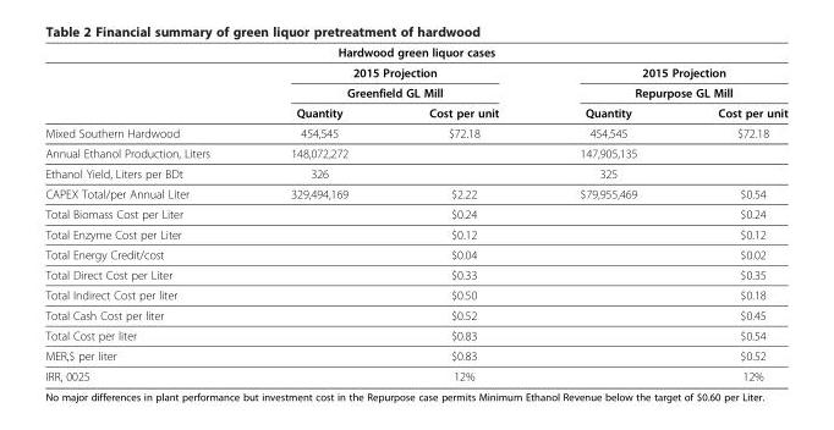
<table><thead><tr><td colspan="5">Hardwood green liquor cases</td></tr><tr><td rowspan="3"></td><td rowspan="2" colspan="2">2015 Projection Greenfield GL Mill</td><td rowspan="2" colspan="2">2015 Projection Repurpose GL Mill</td></tr><tr></tr><tr><td>Quantity</td><td>Cost per unit</td><td>Quantity</td><td>Cost per unit</td></tr></thead><tbody><tr><td>Mixed Southern Hardwood</td><td>454,545</td><td>$72.18</td><td>454,545</td><td>$72.18</td></tr><tr><td>Annual Ethanol Production, Liters</td><td>148,072,272</td><td></td><td>147,905,135</td><td></td></tr><tr><td>Ethanol Yield, Liters per BDt</td><td>326</td><td></td><td>325</td><td></td></tr><tr><td>CAPEX Total/per Annual Liter</td><td>329,494,169</td><td>$2.22</td><td>$79,955,469</td><td>$0.54</td></tr><tr><td>Total Biomass Cost per Liter</td><td></td><td>$0.24</td><td></td><td>$0.24</td></tr><tr><td>Total Enzyme Cost per Liter</td><td></td><td>$0.12</td><td></td><td>$0.12</td></tr><tr><td>Total Energy Credit/cost</td><td></td><td>$0.04</td><td></td><td>$0.02</td></tr><tr><td>Total Direct Cost per Liter</td><td></td><td>$0.33</td><td></td><td>$0.35</td></tr><tr><td>Total Indirect Cost per liter</td><td></td><td>$0.50</td><td></td><td>$0.18</td></tr><tr><td>Total Cash Cost per liter</td><td></td><td>$0.52</td><td></td><td>$0.45</td></tr><tr><td>Total Cost per liter</td><td></td><td>$0.83</td><td></td><td>$0.54</td></tr><tr><td>MER,$ per liter</td><td></td><td>$0.83</td><td></td><td>$0.52</td></tr><tr><td>IRR, 0025</td><td></td><td>12%</td><td></td><td>12%</td></tr></tbody></table>